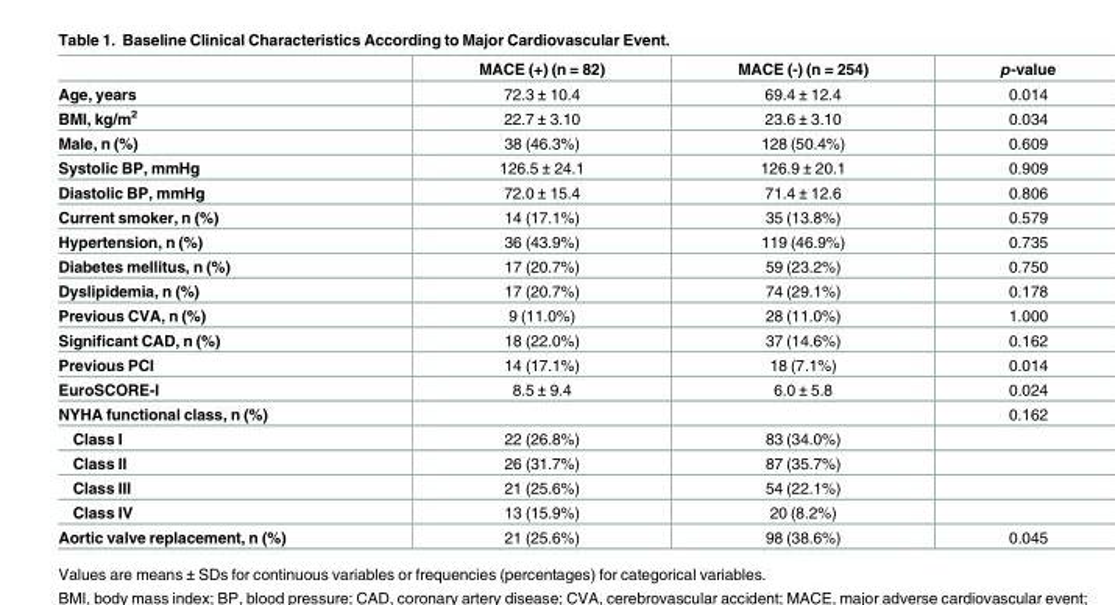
<table><thead><tr><td></td><td>MACE (+) (n = 82)</td><td>MACE (-) (n = 254)</td><td>p-value</td></tr></thead><tbody><tr><td>Age, years</td><td>72.3 ± 10.4</td><td>69.4 ± 12.4</td><td>0.014</td></tr><tr><td>BMI, kg/m<sup>2</sup></td><td>22.7 ± 3.10</td><td>23.6 ± 3.10</td><td>0.034</td></tr><tr><td>Male, n (%)</td><td>38 (46.3%)</td><td>128 (50.4%)</td><td>0.609</td></tr><tr><td>Systolic BP, mmHg</td><td>126.5 ± 24.1</td><td>126.9 ± 20.1</td><td>0.909</td></tr><tr><td>Diastolic BP, mmHg</td><td>72.0 ± 15.4</td><td>71.4 ± 12.6</td><td>0.806</td></tr><tr><td>Current smoker, n (%)</td><td>14 (17.1%)</td><td>35 (13.8%)</td><td>0.579</td></tr><tr><td>Hypertension, n (%)</td><td>36 (43.9%)</td><td>119 (46.9%)</td><td>0.735</td></tr><tr><td>Diabetes mellitus, n (%)</td><td>17 (20.7%)</td><td>59 (23.2%)</td><td>0.750</td></tr><tr><td>Dyslipidemia, n (%)</td><td>17 (20.7%)</td><td>74 (29.1%)</td><td>0.178</td></tr><tr><td>Previous CVA, n (%)</td><td>9 (11.0%)</td><td>28 (11.0%)</td><td>1.000</td></tr><tr><td>Significant CAD, n (%)</td><td>18 (22.0%)</td><td>37 (14.6%)</td><td>0.162</td></tr><tr><td>Previous PCI</td><td>14 (17.1%)</td><td>18 (7.1%)</td><td>0.014</td></tr><tr><td>EuroSCORE-I</td><td>8.5 ± 9.4</td><td>6.0 ± 5.8</td><td>0.024</td></tr><tr><td>NYHA functional class, n (%)</td><td></td><td></td><td>0.162</td></tr><tr><td>Class I</td><td>22 (26.8%)</td><td>83 (34.0%)</td><td></td></tr><tr><td>Class II</td><td>26 (31.7%)</td><td>87 (35.7%)</td><td></td></tr><tr><td>Class III</td><td>21 (25.6%)</td><td>54 (22.1%)</td><td></td></tr><tr><td>Class IV</td><td>13 (15.9%)</td><td>20 (8.2%)</td><td></td></tr><tr><td>Aortic valve replacement, n (%)</td><td>21 (25.6%)</td><td>98 (38.6%)</td><td>0.045</td></tr></tbody></table>